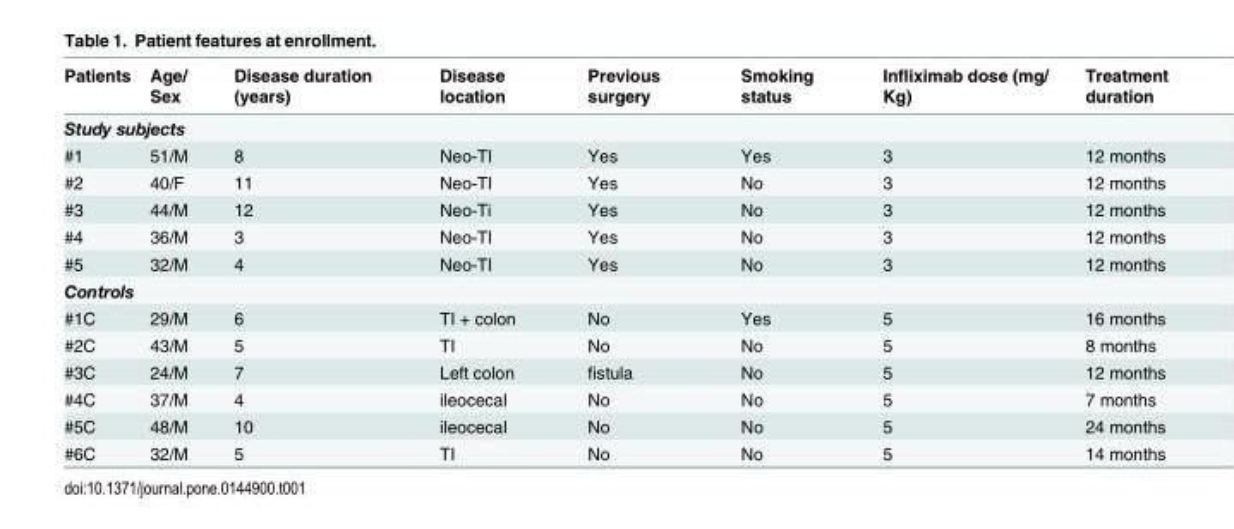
<table><thead><tr><td>Patients</td><td>Age/ Sex</td><td>Disease duration (years)</td><td>Disease location</td><td>Previous surgery</td><td>Smoking status</td><td>Infliximab dose (mg/ Kg)</td><td>Treatment duration</td></tr></thead><tbody><tr><td colspan="8">Study subjects</td></tr><tr><td>#1</td><td>51/M</td><td>8</td><td>Neo-TI</td><td>Yes</td><td>Yes</td><td>3</td><td>12 months</td></tr><tr><td>#2</td><td>40/F</td><td>11</td><td>Neo-TI</td><td>Yes</td><td>No</td><td>3</td><td>12 months</td></tr><tr><td>#3</td><td>44/M</td><td>12</td><td>Neo-Ti</td><td>Yes</td><td>No</td><td>3</td><td>12 months</td></tr><tr><td>#4</td><td>36/M</td><td>3</td><td>Neo-TI</td><td>Yes</td><td>No</td><td>3</td><td>12 months</td></tr><tr><td>#5</td><td>32/M</td><td>4</td><td>Neo-TI</td><td>Yes</td><td>No</td><td>3</td><td>12 months</td></tr><tr><td colspan="8">Controls</td></tr><tr><td>#1C</td><td>29/M</td><td>6</td><td>TI + colon</td><td>No</td><td>Yes</td><td>5</td><td>16 months</td></tr><tr><td>#2C</td><td>43/M</td><td>5</td><td>TI</td><td>No</td><td>No</td><td>5</td><td>8 months</td></tr><tr><td>#3C</td><td>24/M</td><td>7</td><td>Left colon</td><td>fistula</td><td>No</td><td>5</td><td>12 months</td></tr><tr><td>#4C</td><td>37/M</td><td>4</td><td>ileocecal</td><td>No</td><td>No</td><td>5</td><td>7 months</td></tr><tr><td>#5C</td><td>48/M</td><td>10</td><td>ileocecal</td><td>No</td><td>No</td><td>5</td><td>24 months</td></tr><tr><td>#6C</td><td>32/M</td><td>5</td><td>TI</td><td>No</td><td>No</td><td>5</td><td>14 months</td></tr></tbody></table>